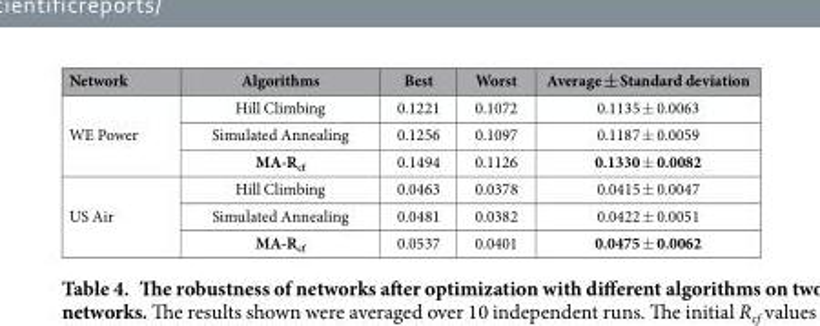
<table><thead><tr><td>Network</td><td>Algorithms</td><td>Best</td><td>Worst</td><td>Average ± Standard deviation</td></tr></thead><tbody><tr><td rowspan="3">WE Power</td><td>Hill Climbing</td><td>0.1221</td><td>0.1072</td><td>0.1135 ± 0.0063</td></tr><tr><td>Simulated Annealing</td><td>0.1256</td><td>0.1097</td><td>0.1187 ± 0.0059</td></tr><tr><td>MA-R<sub>cf</sub></td><td>0.1494</td><td>0.1126</td><td>0.1330 ± 0.0082</td></tr><tr><td rowspan="3">US Air</td><td>Hill Climbing</td><td>0.0463</td><td>0.0378</td><td>0.0415 ± 0.0047</td></tr><tr><td>Simulated Annealing</td><td>0.0481</td><td>0.0382</td><td>0.0422 ± 0.0051</td></tr><tr><td>MA-R<sub>cf</sub></td><td>0.0537</td><td>0.0401</td><td>0.0475 ± 0.0062</td></tr></tbody></table>